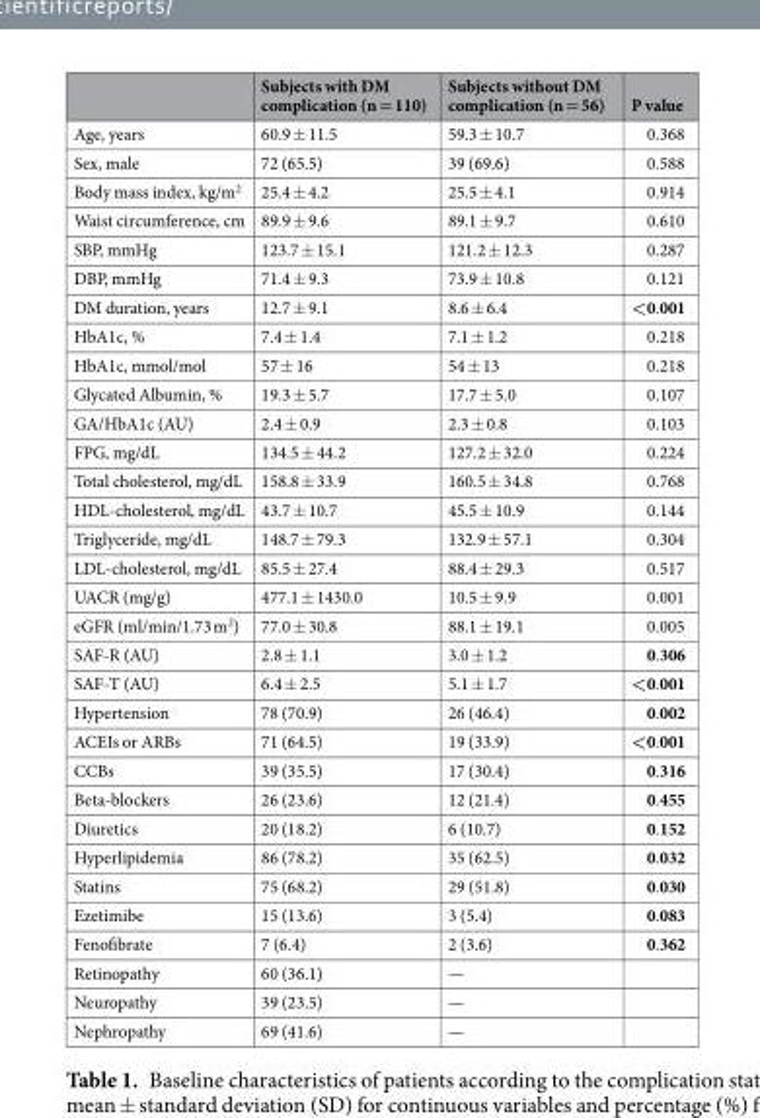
<table><thead><tr><td></td><td>Subjects with DM complication (n = 110)</td><td>Subjects without DM complication (n = 56)</td><td>P value</td></tr></thead><tbody><tr><td>Age, years</td><td>60.9 ± 11.5</td><td>59.3 ± 10.7</td><td>0.368</td></tr><tr><td>Sex, male</td><td>72 (65.5)</td><td>39 (69.6)</td><td>0.588</td></tr><tr><td>Body mass index, kg/m<sup>2</sup></td><td>25.4 ± 4.2</td><td>25.5 ± 4.1</td><td>0.914</td></tr><tr><td>Waist circumference, cm</td><td>89.9 ± 9.6</td><td>89.1 ± 9.7</td><td>0.610</td></tr><tr><td>SBP, mmHg</td><td>123.7 ± 15.1</td><td>121.2 ± 12.3</td><td>0.287</td></tr><tr><td>DBP, mmHg</td><td>71.4 ± 9.3</td><td>73.9 ± 10.8</td><td>0.121</td></tr><tr><td>DM duration, years</td><td>12.7 ± 9.1</td><td>8.6 ± 6.4</td><td>&lt;0.001</td></tr><tr><td>HbA1c, %</td><td>7.4 ± 1.4</td><td>7.1 ± 1.2</td><td>0.218</td></tr><tr><td>HbA1c, mmol/mol</td><td>57 ± 16</td><td>54 ± 13</td><td>0.218</td></tr><tr><td>Glycated Albumin, %</td><td>19.3 ± 5.7</td><td>17.7 ± 5.0</td><td>0.107</td></tr><tr><td>GA/HbA1c (AU)</td><td>2.4 ± 0.9</td><td>2.3 ± 0.8</td><td>0.103</td></tr><tr><td>FPG, mg/dL</td><td>134.5 ± 44.2</td><td>127.2 ± 32.0</td><td>0.224</td></tr><tr><td>Total cholesterol, mg/dL</td><td>158.8 ± 33.9</td><td>160.5 ± 34.8</td><td>0.768</td></tr><tr><td>HDL-cholesterol, mg/dL</td><td>43.7 ± 10.7</td><td>45.5 ± 10.9</td><td>0.144</td></tr><tr><td>Triglyceride, mg/dL</td><td>148.7 ± 79.3</td><td>132.9 ± 57.1</td><td>0.304</td></tr><tr><td>LDL-cholesterol, mg/dL</td><td>85.5 ± 27.4</td><td>88.4 ± 29.3</td><td>0.517</td></tr><tr><td>UACR (mg/g)</td><td>477.1 ± 1430.0</td><td>10.5 ± 9.9</td><td>0.001</td></tr><tr><td>eGFR (ml/min/1.73 m<sup>2</sup>)</td><td>77.0 ± 30.8</td><td>88.1 ± 19.1</td><td>0.005</td></tr><tr><td>SAF-R (AU)</td><td>2.8 ± 1.1</td><td>3.0 ± 1.2</td><td>0.306</td></tr><tr><td>SAF-T (AU)</td><td>6.4 ± 2.5</td><td>5.1 ± 1.7</td><td>&lt;0.001</td></tr><tr><td>Hypertension</td><td>78 (70.9)</td><td>26 (46.4)</td><td>0.002</td></tr><tr><td>ACEIs or ARBs</td><td>71 (64.5)</td><td>19 (33.9)</td><td>&lt;0.001</td></tr><tr><td>CCBs</td><td>39 (35.5)</td><td>17 (30.4)</td><td>0.316</td></tr><tr><td>Beta-blockers</td><td>26 (23.6)</td><td>12 (21.4)</td><td>0.455</td></tr><tr><td>Diuretics</td><td>20 (18.2)</td><td>6 (10.7)</td><td>0.152</td></tr><tr><td>Hyperlipidemia</td><td>86 (78.2)</td><td>35 (62.5)</td><td>0.032</td></tr><tr><td>Statins</td><td>75 (68.2)</td><td>29 (51.8)</td><td>0.030</td></tr><tr><td>Ezetimibe</td><td>15 (13.6)</td><td>3 (5.4)</td><td>0.083</td></tr><tr><td>Fenofibrate</td><td>7 (6.4)</td><td>2 (3.6)</td><td>0.362</td></tr><tr><td>Retinopathy</td><td>60 (36.1)</td><td>—</td><td></td></tr><tr><td>Neuropathy</td><td>39 (23.5)</td><td>—</td><td></td></tr><tr><td>Nephropathy</td><td>69 (41.6)</td><td>—</td><td></td></tr></tbody></table>